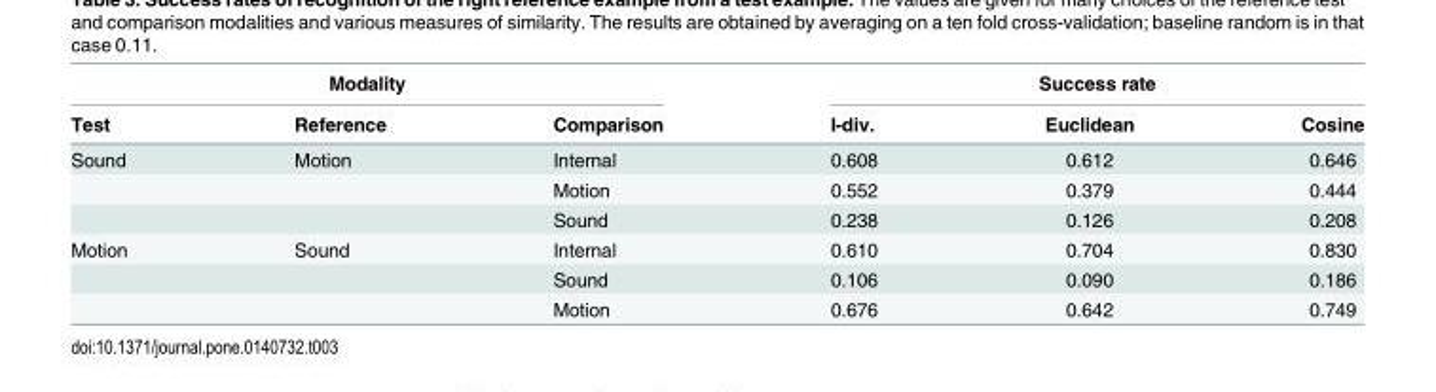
<table><thead><tr><td colspan="3">Modality</td><td colspan="3">Success rate</td></tr><tr><td>Test</td><td>Reference</td><td>Comparison</td><td>I-div.</td><td>Euclidean</td><td>Cosine</td></tr></thead><tbody><tr><td rowspan="3">Sound</td><td>Motion</td><td>Internal</td><td>0.608</td><td>0.612</td><td>0.646</td></tr><tr><td></td><td>Motion</td><td>0.552</td><td>0.379</td><td>0.444</td></tr><tr><td></td><td>Sound</td><td>0.238</td><td>0.126</td><td>0.208</td></tr><tr><td rowspan="3">Motion</td><td>Sound</td><td>Internal</td><td>0.610</td><td>0.704</td><td>0.830</td></tr><tr><td></td><td>Sound</td><td>0.106</td><td>0.090</td><td>0.186</td></tr><tr><td></td><td>Motion</td><td>0.676</td><td>0.642</td><td>0.749</td></tr></tbody></table>